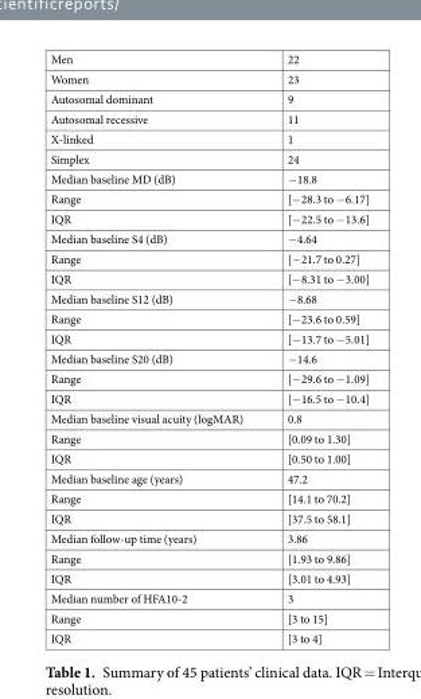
<table><tbody><tr><td>Men</td><td>22</td></tr><tr><td>Women</td><td>23</td></tr><tr><td>Autosomal dominant</td><td>9</td></tr><tr><td>Autosomal recessive</td><td>11</td></tr><tr><td>X-linked</td><td>1</td></tr><tr><td>Simplex</td><td>24</td></tr><tr><td>Median baseline MD (dB)</td><td>−18.8</td></tr><tr><td>Range</td><td>[−28.3 to −6.17]</td></tr><tr><td>IQR</td><td>[−22.5 to −13.6]</td></tr><tr><td>Median baseline S4 (dB)</td><td>−4.64</td></tr><tr><td>Range</td><td>[−21.7 to 0.27]</td></tr><tr><td>IQR</td><td>[−8.31 to −3.00]</td></tr><tr><td>Median baseline S12 (dB)</td><td>−8.68</td></tr><tr><td>Range</td><td>[−23.6 to 0.59]</td></tr><tr><td>IQR</td><td>[−13.7 to −5.01]</td></tr><tr><td>Median baseline S20 (dB)</td><td>−14.6</td></tr><tr><td>Range</td><td>[−29.6 to −1.09]</td></tr><tr><td>IQR</td><td>[−16.5 to −10.4]</td></tr><tr><td>Median baseline visual acuity (logMAR)</td><td>0.8</td></tr><tr><td>Range</td><td>[0.09 to 1.30]</td></tr><tr><td>IQR</td><td>[0.50 to 1.00]</td></tr><tr><td>Median baseline age (years)</td><td>47.2</td></tr><tr><td>Range</td><td>[14.1 to 70.2]</td></tr><tr><td>IQR</td><td>[37.5 to 58.1]</td></tr><tr><td>Median follow-up time (years)</td><td>3.86</td></tr><tr><td>Range</td><td>[1.93 to 9.86]</td></tr><tr><td>IQR</td><td>[3.01 to 4.93]</td></tr><tr><td>Median number of HFA10-2</td><td>3</td></tr><tr><td>Range</td><td>[3 to 15]</td></tr><tr><td>IQR</td><td>[3 to 4]</td></tr></tbody></table>